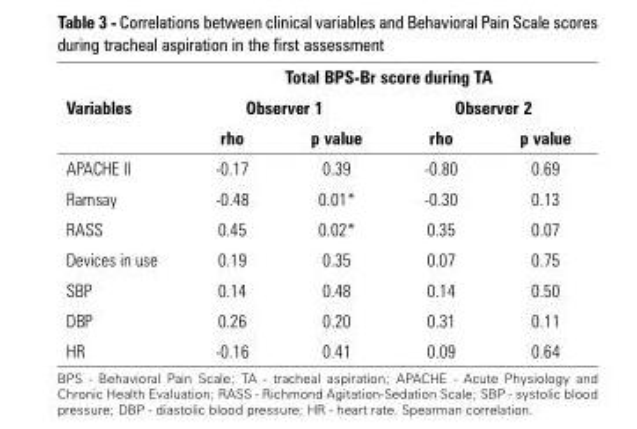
<table><thead><tr><td rowspan="3">Variables</td><td colspan="4">Total BPS-Br score during TA</td></tr><tr><td colspan="2">Observer 1</td><td colspan="2">Observer 2</td></tr><tr><td>rho</td><td>p value</td><td>rho</td><td>p value</td></tr></thead><tbody><tr><td>APACHE II</td><td>-0.17</td><td>0.39</td><td>-0.80</td><td>0.69</td></tr><tr><td>Ramsay</td><td>-0.48</td><td>0.01*</td><td>-0.30</td><td>0.13</td></tr><tr><td>RASS</td><td>0.45</td><td>0.02*</td><td>0.35</td><td>0.07</td></tr><tr><td>Devices in use</td><td>0.19</td><td>0.35</td><td>0.07</td><td>0.75</td></tr><tr><td>SBP</td><td>0.14</td><td>0.48</td><td>0.14</td><td>0.50</td></tr><tr><td>DBP</td><td>0.26</td><td>0.20</td><td>0.31</td><td>0.11</td></tr><tr><td>HR</td><td>-0.16</td><td>0.41</td><td>0.09</td><td>0.64</td></tr></tbody></table>